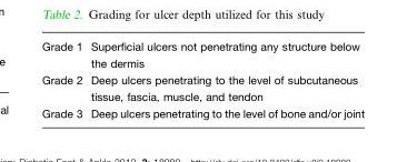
<table><tbody><tr><td>Grade 1</td><td>Superficial ulcers not penetrating any structure below the dermis</td></tr><tr><td>Grade 2</td><td>Deep ulcers penetrating to the level of subcutaneous tissue, fascia, muscle, and tendon</td></tr><tr><td>Grade 3</td><td>Deep ulcers penetrating to the level of bone and/or joint</td></tr></tbody></table>